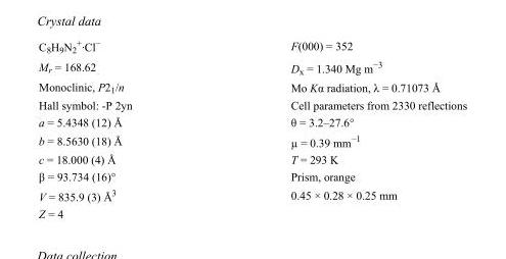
<table><tbody><tr><td>C<sub>8</sub>H<sub>9</sub>N<sub>2</sub> <sup>+</sup>·Cl<sup>−</sup></td><td>F(000) = 352</td></tr><tr><td>M<sub>r</sub> = 168.62</td><td>D<sub>x</sub> = 1.340 Mg m<sup>−3</sup></td></tr><tr><td>Monoclinic, P2<sub>1</sub>/n</td><td>Mo Kα radiation, λ = 0.71073 Å</td></tr><tr><td>Hall symbol: -P 2yn</td><td>Cell parameters from 2330 reflections</td></tr><tr><td>a = 5.4348 (12) Å</td><td>θ = 3.2–27.6°</td></tr><tr><td>b = 8.5630 (18) Å</td><td>µ = 0.39 mm<sup>−1</sup></td></tr><tr><td>c = 18.000 (4) Å</td><td>T = 293 K</td></tr><tr><td>β = 93.734 (16)°</td><td>Prism, orange</td></tr><tr><td>V = 835.9 (3) Å<sup>3</sup></td><td>0.45 × 0.28 × 0.25 mm</td></tr><tr><td>Z = 4</td><td></td></tr></tbody></table>